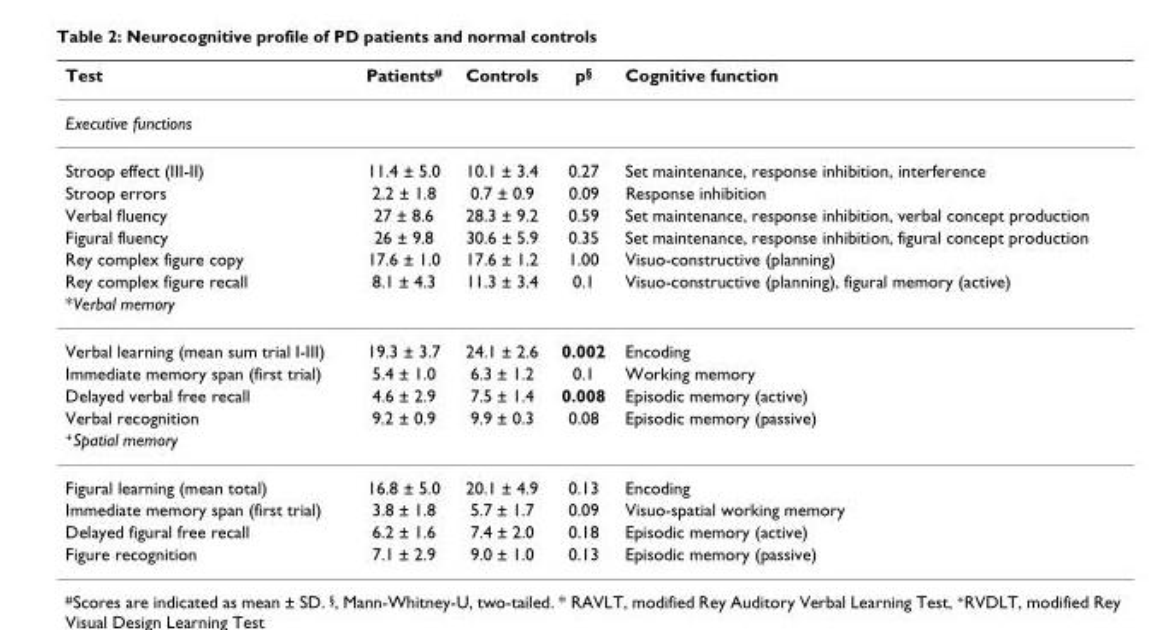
<table><thead><tr><td>Test</td><td>Patients<sup>#</sup></td><td>Controls</td><td>p<sup>§</sup></td><td>Cognitive function</td></tr></thead><tbody><tr><td colspan="5">Executive functions</td></tr><tr><td>Stroop effect (III-II)</td><td>11.4 ± 5.0</td><td>10.1 ± 3.4</td><td>0.27</td><td>Set maintenance, response inhibition, interference</td></tr><tr><td>Stroop errors</td><td>2.2 ± 1.8</td><td>0.7 ± 0.9</td><td>0.09</td><td>Response inhibition</td></tr><tr><td>Verbal fluency</td><td>27 ± 8.6</td><td>28.3 ± 9.2</td><td>0.59</td><td>Set maintenance, response inhibition, verbal concept production</td></tr><tr><td>Figural fluency</td><td>26 ± 9.8</td><td>30.6 ± 5.9</td><td>0.35</td><td>Set maintenance, response inhibition, figural concept production</td></tr><tr><td>Rey complex figure copy</td><td>17.6 ± 1.0</td><td>17.6 ± 1.2</td><td>1.00</td><td>Visuo-constructive (planning)</td></tr><tr><td>Rey complex figure recall</td><td>8.1 ± 4.3</td><td>11.3 ± 3.4</td><td>0.1</td><td>Visuo-constructive (planning), figural memory (active)</td></tr><tr><td colspan="5">*Verbal memory</td></tr><tr><td>Verbal learning (mean sum trial I-III)</td><td>19.3 ± 3.7</td><td>24.1 ± 2.6</td><td>0.002</td><td>Encoding</td></tr><tr><td>Immediate memory span (first trial)</td><td>5.4 ± 1.0</td><td>6.3 ± 1.2</td><td>0.1</td><td>Working memory</td></tr><tr><td>Delayed verbal free recall</td><td>4.6 ± 2.9</td><td>7.5 ± 1.4</td><td>0.008</td><td>Episodic memory (active)</td></tr><tr><td>Verbal recognition</td><td>9.2 ± 0.9</td><td>9.9 ± 0.3</td><td>0.08</td><td>Episodic memory (passive)</td></tr><tr><td colspan="5"><sup>+</sup>Spatial memory</td></tr><tr><td>Figural learning (mean total)</td><td>16.8 ± 5.0</td><td>20.1 ± 4.9</td><td>0.13</td><td>Encoding</td></tr><tr><td>Immediate memory span (first trial)</td><td>3.8 ± 1.8</td><td>5.7 ± 1.7</td><td>0.09</td><td>Visuo-spatial working memory</td></tr><tr><td>Delayed figural free recall</td><td>6.2 ± 1.6</td><td>7.4 ± 2.0</td><td>0.18</td><td>Episodic memory (active)</td></tr><tr><td>Figure recognition</td><td>7.1 ± 2.9</td><td>9.0 ± 1.0</td><td>0.13</td><td>Episodic memory (passive)</td></tr></tbody></table>